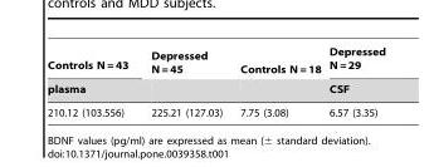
<table><thead><tr><td rowspan="2">Controls N = 43 plasma</td><td rowspan="2">Depressed N = 45</td><td rowspan="2">Controls N = 18</td><td rowspan="2">Depressed N = 29 CSF</td></tr><tr></tr></thead><tbody><tr><td>210.12 (103.556)</td><td>225.21 (127.03)</td><td>7.75 (3.08)</td><td>6.57 (3.35)</td></tr></tbody></table>